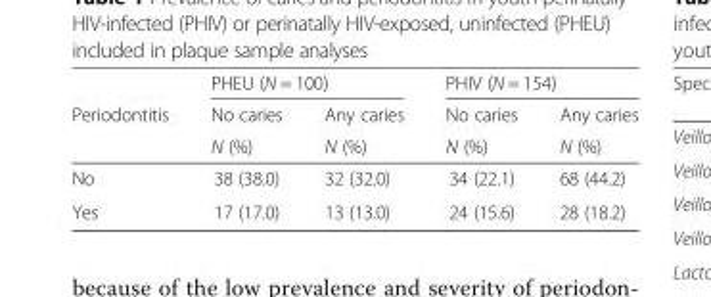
<table><thead><tr><td rowspan="3">Periodontitis</td><td colspan="2">PHEU (N = 100)</td><td colspan="2">PHIV (N = 154)</td></tr><tr><td rowspan="2">No caries N (%)</td><td rowspan="2">Any caries N (%)</td><td rowspan="2">No caries N (%)</td><td rowspan="2">Any caries N (%)</td></tr><tr></tr></thead><tbody><tr><td>No</td><td>38 (38.0)</td><td>32 (32.0)</td><td>34 (22.1)</td><td>68 (44.2)</td></tr><tr><td>Yes</td><td>17 (17.0)</td><td>13 (13.0)</td><td>24 (15.6)</td><td>28 (18.2)</td></tr></tbody></table>